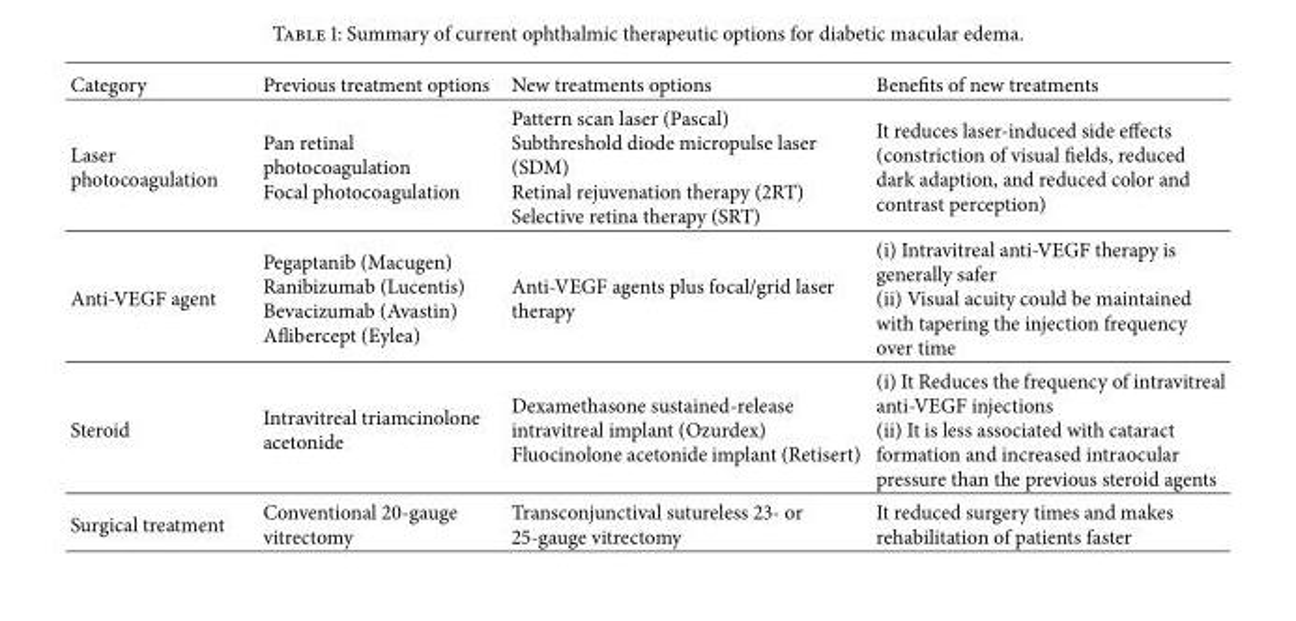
<table><thead><tr><td>Category</td><td>Previous treatment options</td><td>New treatments options</td><td>Benefits of new treatments</td></tr></thead><tbody><tr><td>Laser photocoagulation</td><td>Pan retinal photocoagulation Focal photocoagulation</td><td>Pattern scan laser (Pascal) Subthreshold diode micropulse laser (SDM) Retinal rejuvenation therapy (2RT) Selective retina therapy (SRT)</td><td>It reduces laser-induced side effects (constriction of visual fields, reduced dark adaption, and reduced color and contrast perception)</td></tr><tr><td>Anti-VEGF agent</td><td>Pegaptanib (Macugen) Ranibizumab (Lucentis) Bevacizumab (Avastin) Aflibercept (Eylea)</td><td>Anti-VEGF agents plus focal/grid laser therapy</td><td>(i) Intravitreal anti-VEGF therapy is generally safer (ii) Visual acuity could be maintained with tapering the injection frequency over time</td></tr><tr><td>Steroid</td><td>Intravitreal triamcinolone acetonide</td><td>Dexamethasone sustained-release intravitreal implant (Ozurdex) Fluocinolone acetonide implant (Retisert)</td><td>(i) It Reduces the frequency of intravitreal anti-VEGF injections (ii) It is less associated with cataract formation and increased intraocular pressure than the previous steroid agents</td></tr><tr><td>Surgical treatment</td><td>Conventional 20-gauge vitrectomy</td><td>Transconjunctival sutureless 23- or 25-gauge vitrectomy</td><td>It reduced surgery times and makes rehabilitation of patients faster</td></tr></tbody></table>